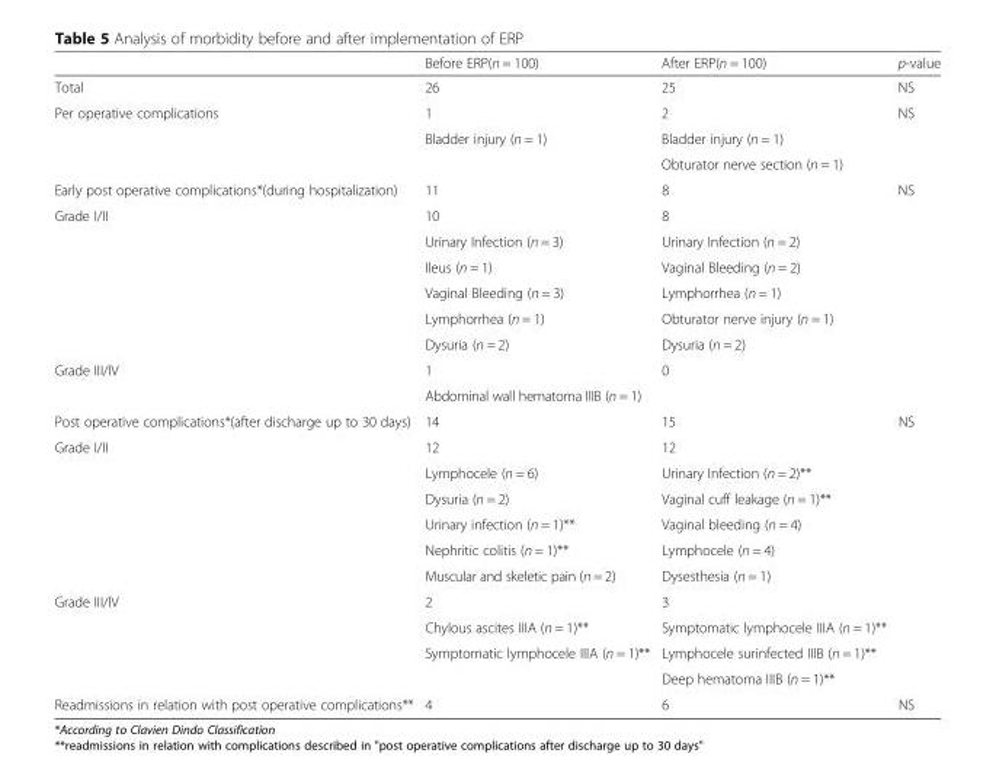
<table><thead><tr><td></td><td>Before ERP(n = 100)</td><td>After ERP(n = 100)</td><td>p-value</td></tr></thead><tbody><tr><td>Total</td><td>26</td><td>25</td><td>NS</td></tr><tr><td rowspan="3">Per operative complications</td><td>1</td><td>2</td><td>NS</td></tr><tr><td>Bladder injury (n = 1)</td><td>Bladder injury (n = 1)</td><td></td></tr><tr><td></td><td>Obturator nerve section (n = 1)</td><td></td></tr><tr><td>Early post operative complications*(during hospitalization)</td><td>11</td><td>8</td><td>NS</td></tr><tr><td rowspan="6">Grade I/II</td><td>10</td><td>8</td><td></td></tr><tr><td>Urinary Infection (n = 3)</td><td>Urinary Infection (n = 2)</td><td></td></tr><tr><td>Ileus (n = 1)</td><td>Vaginal Bleeding (n = 2)</td><td></td></tr><tr><td>Vaginal Bleeding (n = 3)</td><td>Lymphorrhea (n = 1)</td><td></td></tr><tr><td>Lymphorrhea (n = 1)</td><td>Obturator nerve injury (n = 1)</td><td></td></tr><tr><td>Dysuria (n = 2)</td><td>Dysuria (n = 2)</td><td></td></tr><tr><td rowspan="2">Grade III/IV</td><td>1</td><td>0</td><td></td></tr><tr><td>Abdominal wall hematoma IIIB (n = 1)</td><td></td><td></td></tr><tr><td>Post operative complications*(after discharge up to 30 days)</td><td>14</td><td>15</td><td>NS</td></tr><tr><td rowspan="6">Grade I/II</td><td>12</td><td>12</td><td></td></tr><tr><td>Lymphocele (n = 6)</td><td>Urinary Infection (n = 2)**</td><td></td></tr><tr><td>Dysuria (n = 2)</td><td>Vaginal cuff leakage (n = 1)**</td><td></td></tr><tr><td>Urinary infection (n = 1)**</td><td>Vaginal bleeding (n = 4)</td><td></td></tr><tr><td>Nephritic colitis (n = 1)**</td><td>Lymphocele (n = 4)</td><td></td></tr><tr><td>Muscular and skeletic pain (n = 2)</td><td>Dysesthesia (n = 1)</td><td></td></tr><tr><td rowspan="4">Grade III/IV</td><td>2</td><td>3</td><td></td></tr><tr><td>Chylous ascites IIIA (n = 1)**</td><td>Symptomatic lymphocele IIIA (n = 1)**</td><td></td></tr><tr><td>Symptomatic lymphocele IIIA (n = 1)**</td><td>Lymphocele surinfected IIIB (n = 1)**</td><td></td></tr><tr><td></td><td>Deep hematoma IIIB (n = 1)**</td><td></td></tr><tr><td>Readmissions in relation with post operative complications**</td><td>4</td><td>6</td><td>NS</td></tr></tbody></table>